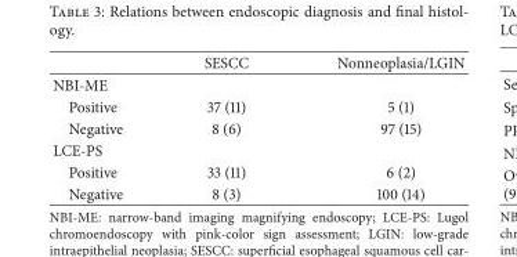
<table><thead><tr><td></td><td>SESCC</td><td>Nonneoplasia/LGIN</td></tr></thead><tbody><tr><td colspan="3">NBI-ME</td></tr><tr><td>Positive</td><td>37 (11)</td><td>5 (1)</td></tr><tr><td>Negative</td><td>8 (6)</td><td>97 (15)</td></tr><tr><td colspan="3">LCE-PS</td></tr><tr><td>Positive</td><td>33 (11)</td><td>6 (2)</td></tr><tr><td>Negative</td><td>8 (3)</td><td>100 (14)</td></tr></tbody></table>